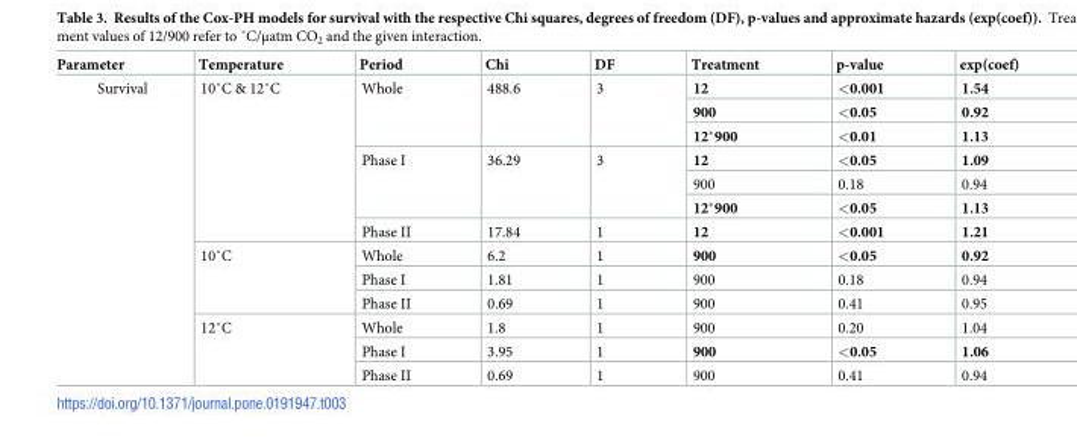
<table><thead><tr><td>Parameter</td><td>Temperature</td><td>Period</td><td>Chi</td><td>DF</td><td>Treatment</td><td>p-value</td><td>exp(coef)</td></tr></thead><tbody><tr><td rowspan="13">Survival</td><td rowspan="7">10˚C &amp; 12˚C</td><td rowspan="3">Whole</td><td rowspan="3">488.6</td><td rowspan="3">3</td><td>12</td><td>&lt;0.001</td><td>1.54</td></tr><tr><td>900</td><td>&lt;0.05</td><td>0.92</td></tr><tr><td>12*900</td><td>&lt;0.01</td><td>1.13</td></tr><tr><td rowspan="3">Phase I</td><td rowspan="3">36.29</td><td rowspan="3">3</td><td>12</td><td>&lt;0.05</td><td>1.09</td></tr><tr><td>900</td><td>0.18</td><td>0.94</td></tr><tr><td>12*900</td><td>&lt;0.05</td><td>1.13</td></tr><tr><td>Phase II</td><td>17.84</td><td>1</td><td>12</td><td>&lt;0.001</td><td>1.21</td></tr><tr><td rowspan="3">10˚C</td><td>Whole</td><td>6.2</td><td>1</td><td>900</td><td>&lt;0.05</td><td>0.92</td></tr><tr><td>Phase I</td><td>1.81</td><td>1</td><td>900</td><td>0.18</td><td>0.94</td></tr><tr><td>Phase II</td><td>0.69</td><td>1</td><td>900</td><td>0.41</td><td>0.95</td></tr><tr><td rowspan="3">12˚C</td><td>Whole</td><td>1.8</td><td>1</td><td>900</td><td>0.20</td><td>1.04</td></tr><tr><td>Phase I</td><td>3.95</td><td>1</td><td>900</td><td>&lt;0.05</td><td>1.06</td></tr><tr><td>Phase II</td><td>0.69</td><td>1</td><td>900</td><td>0.41</td><td>0.94</td></tr></tbody></table>